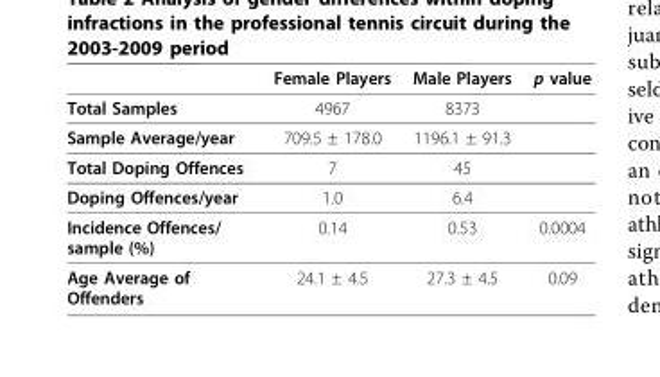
<table><thead><tr><td></td><td>Female Players</td><td>Male Players</td><td>p value</td></tr></thead><tbody><tr><td>Total Samples</td><td>4967</td><td>8373</td><td></td></tr><tr><td>Sample Average/year</td><td>709.5 ± 178.0</td><td>1196.1 ± 91.3</td><td></td></tr><tr><td>Total Doping Offences</td><td>7</td><td>45</td><td></td></tr><tr><td>Doping Offences/year</td><td>1.0</td><td>6.4</td><td></td></tr><tr><td>Incidence Offences/ sample (%)</td><td>0.14</td><td>0.53</td><td>0.0004</td></tr><tr><td>Age Average of Offenders</td><td>24.1 ± 4.5</td><td>27.3 ± 4.5</td><td>0.09</td></tr></tbody></table>